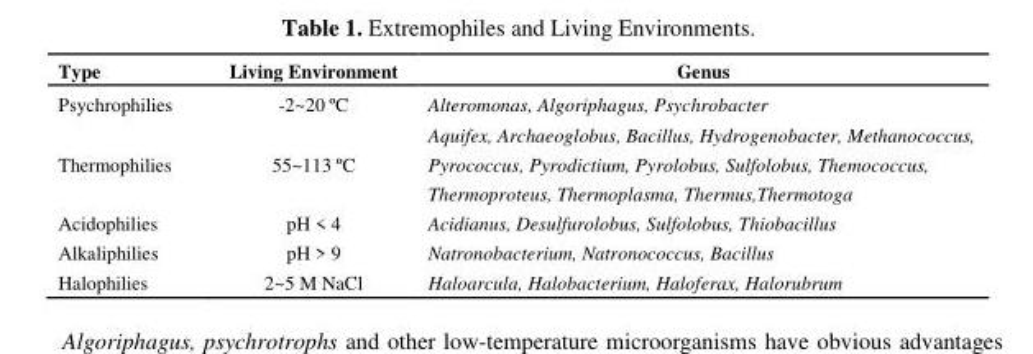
<table><thead><tr><td>Type</td><td>Living Environment</td><td>Genus</td></tr></thead><tbody><tr><td>Psychrophilies</td><td>-2~20 ºC</td><td>Alteromonas, Algoriphagus, Psychrobacter</td></tr><tr><td>Thermophilies</td><td>55~113 ºC</td><td>Aquifex, Archaeoglobus, Bacillus, Hydrogenobacter, Methanococcus, Pyrococcus, Pyrodictium, Pyrolobus, Sulfolobus, Themococcus, Thermoproteus, Thermoplasma, Thermus,Thermotoga</td></tr><tr><td>Acidophilies</td><td>pH &lt; 4</td><td>Acidianus, Desulfurolobus, Sulfolobus, Thiobacillus</td></tr><tr><td>Alkaliphilies</td><td>pH &gt; 9</td><td>Natronobacterium, Natronococcus, Bacillus</td></tr><tr><td>Halophilies</td><td>2~5 M NaCl</td><td>Haloarcula, Halobacterium, Haloferax, Halorubrum</td></tr></tbody></table>